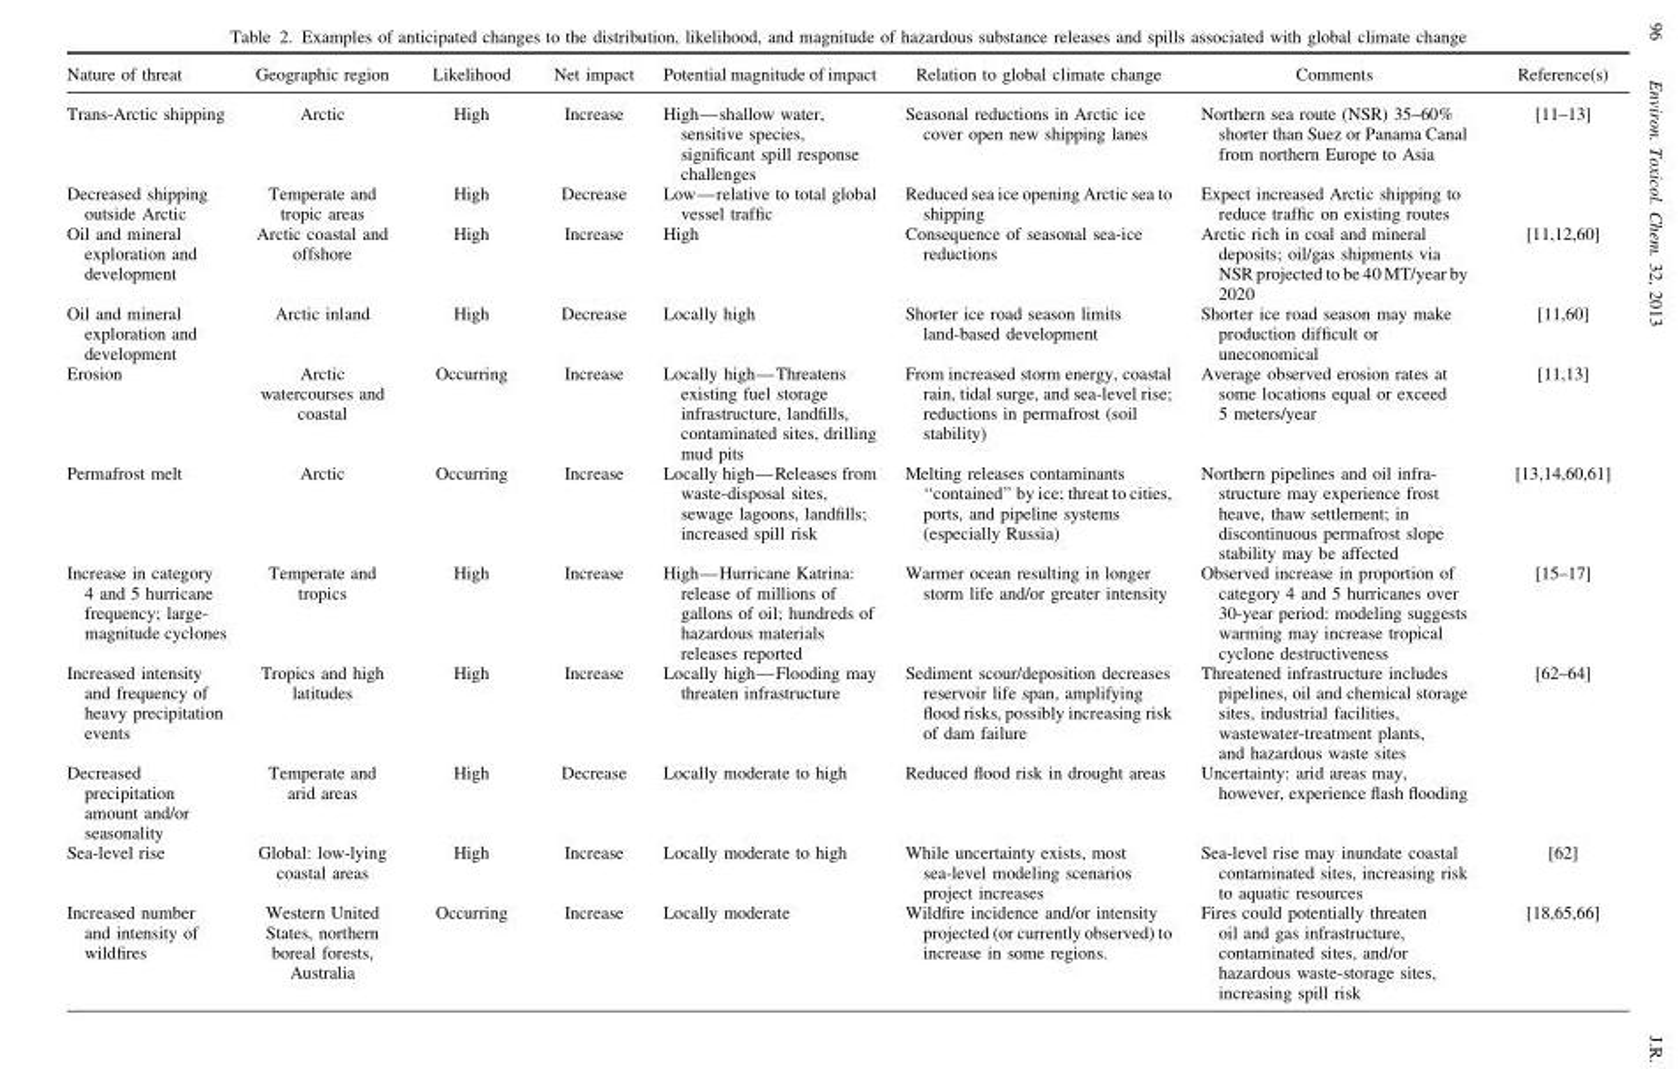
<table><thead><tr><td>Nature of threat</td><td>Geographic region</td><td>Likelihood</td><td>Net impact</td><td>Potential magnitude of impact</td><td>Relation to global climate change</td><td>Comments</td><td>Reference(s)</td></tr></thead><tbody><tr><td>Trans-Arctic shipping</td><td>Arctic</td><td>High</td><td>Increase</td><td>High—shallow water, sensitive species, significant spill response challenges</td><td>Seasonal reductions in Arctic ice cover open new shipping lanes</td><td>Northern sea route (NSR) 35–60% shorter than Suez or Panama Canal from northern Europe to Asia</td><td>[11–13]</td></tr><tr><td>Decreased shipping outside Arctic</td><td>Temperate and tropic areas</td><td>High</td><td>Decrease</td><td>Low—relative to total global vessel traffic</td><td>Reduced sea ice opening Arctic sea to shipping</td><td>Expect increased Arctic shipping to reduce traffic on existing routes</td><td></td></tr><tr><td>Oil and mineral exploration and development</td><td>Arctic coastal and offshore</td><td>High</td><td>Increase</td><td>High</td><td>Consequence of seasonal sea-ice reductions</td><td>Arctic rich in coal and mineral deposits; oil/gas shipments via NSR projected to be 40 MT/year by 2020</td><td>[11,12,60]</td></tr><tr><td>Oil and mineral exploration and development</td><td>Arctic inland</td><td>High</td><td>Decrease</td><td>Locally high</td><td>Shorter ice road season limits land-based development</td><td>Shorter ice road season may make production difficult or uneconomical</td><td>[11,60]</td></tr><tr><td>Erosion</td><td>Arctic watercourses and coastal</td><td>Occurring</td><td>Increase</td><td>Locally high—Threatens existing fuel storage infrastructure, landfills, contaminated sites, drilling mud pits</td><td>From increased storm energy, coastal rain, tidal surge, and sea-level rise; reductions in permafrost (soil stability)</td><td>Average observed erosion rates at some locations equal or exceed 5 meters/year</td><td>[11,13]</td></tr><tr><td>Permafrost melt</td><td>Arctic</td><td>Occurring</td><td>Increase</td><td>Locally high—Releases from waste-disposal sites, sewage lagoons, landfills; increased spill risk</td><td>Melting releases contaminants ‘‘contained’’ by ice; threat to cities, ports, and pipeline systems (especially Russia)</td><td>Northern pipelines and oil infra- structure may experience frost heave, thaw settlement; in discontinuous permafrost slope stability may be affected</td><td>[13,14,60,61]</td></tr><tr><td>Increase in category 4 and 5 hurricane frequency; large- magnitude cyclones</td><td>Temperate and tropics</td><td>High</td><td>Increase</td><td>High—Hurricane Katrina: release of millions of gallons of oil; hundreds of hazardous materials releases reported</td><td>Warmer ocean resulting in longer storm life and/or greater intensity</td><td>Observed increase in proportion of category 4 and 5 hurricanes over 30-year period: modeling suggests warming may increase tropical cyclone destructiveness</td><td>[15–17]</td></tr><tr><td>Increased intensity and frequency of heavy precipitation events</td><td>Tropics and high latitudes</td><td>High</td><td>Increase</td><td>Locally high—Flooding may threaten infrastructure</td><td>Sediment scour/deposition decreases reservoir life span, amplifying flood risks, possibly increasing risk of dam failure</td><td>Threatened infrastructure includes pipelines, oil and chemical storage sites, industrial facilities, wastewater-treatment plants, and hazardous waste sites</td><td>[62–64]</td></tr><tr><td>Decreased precipitation amount and/or seasonality</td><td>Temperate and arid areas</td><td>High</td><td>Decrease</td><td>Locally moderate to high</td><td>Reduced flood risk in drought areas</td><td>Uncertainty: arid areas may, however, experience flash flooding</td><td></td></tr><tr><td>Sea-level rise</td><td>Global: low-lying coastal areas</td><td>High</td><td>Increase</td><td>Locally moderate to high</td><td>While uncertainty exists, most sea-level modeling scenarios project increases</td><td>Sea-level rise may inundate coastal contaminated sites, increasing risk to aquatic resources</td><td>[62]</td></tr><tr><td>Increased number and intensity of wildfires</td><td>Western United States, northern boreal forests, Australia</td><td>Occurring</td><td>Increase</td><td>Locally moderate</td><td>Wildfire incidence and/or intensity projected (or currently observed) to increase in some regions.</td><td>Fires could potentially threaten oil and gas infrastructure, contaminated sites, and/or hazardous waste-storage sites, increasing spill risk</td><td>[18,65,66]</td></tr></tbody></table>